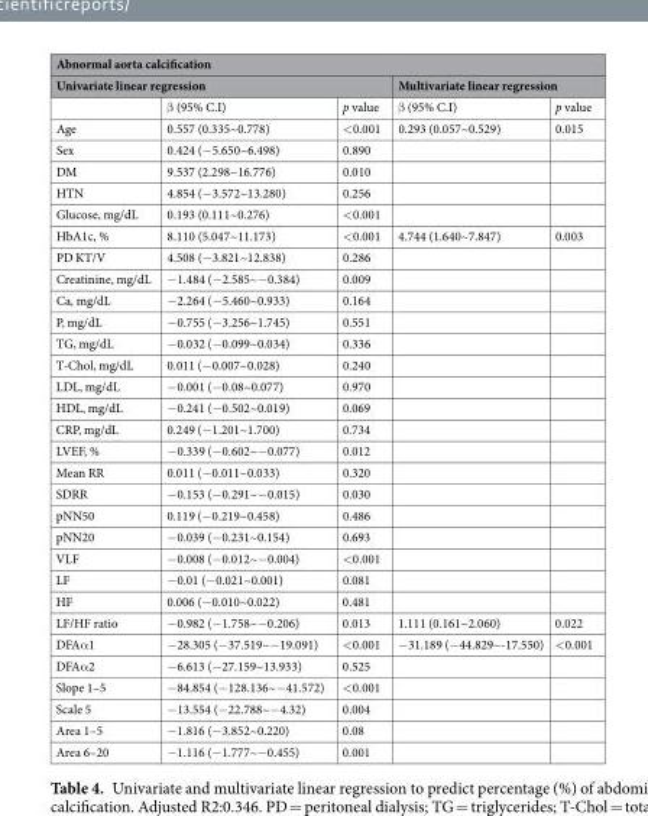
<table><thead><tr><td colspan="5">Abnormal aorta calcification</td></tr><tr><td colspan="3">Univariate linear regression</td><td colspan="2">Multivariate linear regression</td></tr><tr><td></td><td>β (95% C.I)</td><td>p value</td><td>β (95% C.I)</td><td>p value</td></tr></thead><tbody><tr><td>Age</td><td>0.557 (0.335~0.778)</td><td>&lt;0.001</td><td>0.293 (0.057~0.529)</td><td>0.015</td></tr><tr><td>Sex</td><td>0.424 (−5.650~6.498)</td><td>0.890</td><td></td><td></td></tr><tr><td>DM</td><td>9.537 (2.298~16.776)</td><td>0.010</td><td></td><td></td></tr><tr><td>HTN</td><td>4.854 (−3.572~13.280)</td><td>0.256</td><td></td><td></td></tr><tr><td>Glucose, mg/dL</td><td>0.193 (0.111~0.276)</td><td>&lt;0.001</td><td></td><td></td></tr><tr><td>HbA1c, %</td><td>8.110 (5.047~11.173)</td><td>&lt;0.001</td><td>4.744 (1.640~7.847)</td><td>0.003</td></tr><tr><td>PD KT/V</td><td>4.508 (−3.821~12.838)</td><td>0.286</td><td></td><td></td></tr><tr><td>Creatinine, mg/dL</td><td>−1.484 (−2.585~−0.384)</td><td>0.009</td><td></td><td></td></tr><tr><td>Ca, mg/dL</td><td>−2.264 (−5.460~0.933)</td><td>0.164</td><td></td><td></td></tr><tr><td>P, mg/dL</td><td>−0.755 (−3.256~1.745)</td><td>0.551</td><td></td><td></td></tr><tr><td>TG, mg/dL</td><td>−0.032 (−0.099~0.034)</td><td>0.336</td><td></td><td></td></tr><tr><td>T-Chol, mg/dL</td><td>0.011 (−0.007~0.028)</td><td>0.240</td><td></td><td></td></tr><tr><td>LDL, mg/dL</td><td>−0.001 (−0.08~0.077)</td><td>0.970</td><td></td><td></td></tr><tr><td>HDL, mg/dL</td><td>−0.241 (−0.502~0.019)</td><td>0.069</td><td></td><td></td></tr><tr><td>CRP, mg/dL</td><td>0.249 (−1.201~1.700)</td><td>0.734</td><td></td><td></td></tr><tr><td>LVEF, %</td><td>−0.339 (−0.602~−0.077)</td><td>0.012</td><td></td><td></td></tr><tr><td>Mean RR</td><td>0.011 (−0.011~0.033)</td><td>0.320</td><td></td><td></td></tr><tr><td>SDRR</td><td>−0.153 (−0.291~−0.015)</td><td>0.030</td><td></td><td></td></tr><tr><td>pNN50</td><td>0.119 (−0.219~0.458)</td><td>0.486</td><td></td><td></td></tr><tr><td>pNN20</td><td>−0.039 (−0.231~0.154)</td><td>0.693</td><td></td><td></td></tr><tr><td>VLF</td><td>−0.008 (−0.012~−0.004)</td><td>&lt;0.001</td><td></td><td></td></tr><tr><td>LF</td><td>−0.01 (−0.021~0.001)</td><td>0.081</td><td></td><td></td></tr><tr><td>HF</td><td>0.006 (−0.010~0.022)</td><td>0.481</td><td></td><td></td></tr><tr><td>LF/HF ratio</td><td>−0.982 (−1.758~−0.206)</td><td>0.013</td><td>1.111 (0.161~2.060)</td><td>0.022</td></tr><tr><td>DFAα1</td><td>−28.305 (−37.519~−19.091)</td><td>&lt;0.001</td><td>−31.189 (−44.829~-17.550)</td><td>&lt;0.001</td></tr><tr><td>DFAα2</td><td>−6.613 (−27.159~13.933)</td><td>0.525</td><td></td><td></td></tr><tr><td>Slope 1–5</td><td>−84.854 (−128.136~−41.572)</td><td>&lt;0.001</td><td></td><td></td></tr><tr><td>Scale 5</td><td>−13.554 (−22.788~−4.32)</td><td>0.004</td><td></td><td></td></tr><tr><td>Area 1–5</td><td>−1.816 (−3.852~0.220)</td><td>0.08</td><td></td><td></td></tr><tr><td>Area 6–20</td><td>−1.116 (−1.777~−0.455)</td><td>0.001</td><td></td><td></td></tr></tbody></table>